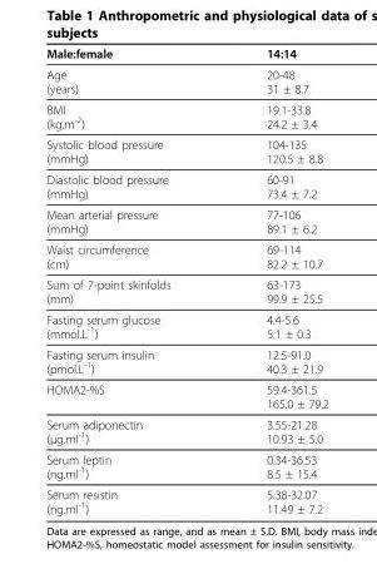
<table><thead><tr><td>Male:female</td><td>14:14</td></tr></thead><tbody><tr><td>Age (years)</td><td>20-48 31 ± 8.7</td></tr><tr><td>BMI (kg.m<sup>-2</sup>)</td><td>19.1-33.8 24.2 ± 3.4</td></tr><tr><td>Systolic blood pressure (mmHg)</td><td>104-135 120.5 ± 8.8</td></tr><tr><td>Diastolic blood pressure (mmHg)</td><td>60-91 73.4 ± 7.2</td></tr><tr><td>Mean arterial pressure (mmHg)</td><td>77-106 89.1 ± 6.2</td></tr><tr><td>Waist circumference (cm)</td><td>69-114 82.2 ± 10.7</td></tr><tr><td>Sum of 7-point skinfolds (mm)</td><td>63-173 99.9 ± 25.5</td></tr><tr><td>Fasting serum glucose (mmol.L<sup>-1</sup>)</td><td>4.4-5.6 5.1 ± 0.3</td></tr><tr><td>Fasting serum insulin (pmol.L<sup>-1</sup>)</td><td>12.5-91.0 40.3 ± 21.9</td></tr><tr><td>HOMA2-%S</td><td>59.4-361.5 165.0 ± 79.2</td></tr><tr><td>Serum adiponectin (μg.ml<sup>-1</sup>)</td><td>3.55-21.28 10.93 ± 5.0</td></tr><tr><td>Serum leptin (ng.ml<sup>-1</sup>)</td><td>0.34-36.53 8.5 ± 15.4</td></tr><tr><td>Serum resistin (ng.ml<sup>-1</sup>)</td><td>5.38-32.07 11.49 ± 7.2</td></tr></tbody></table>